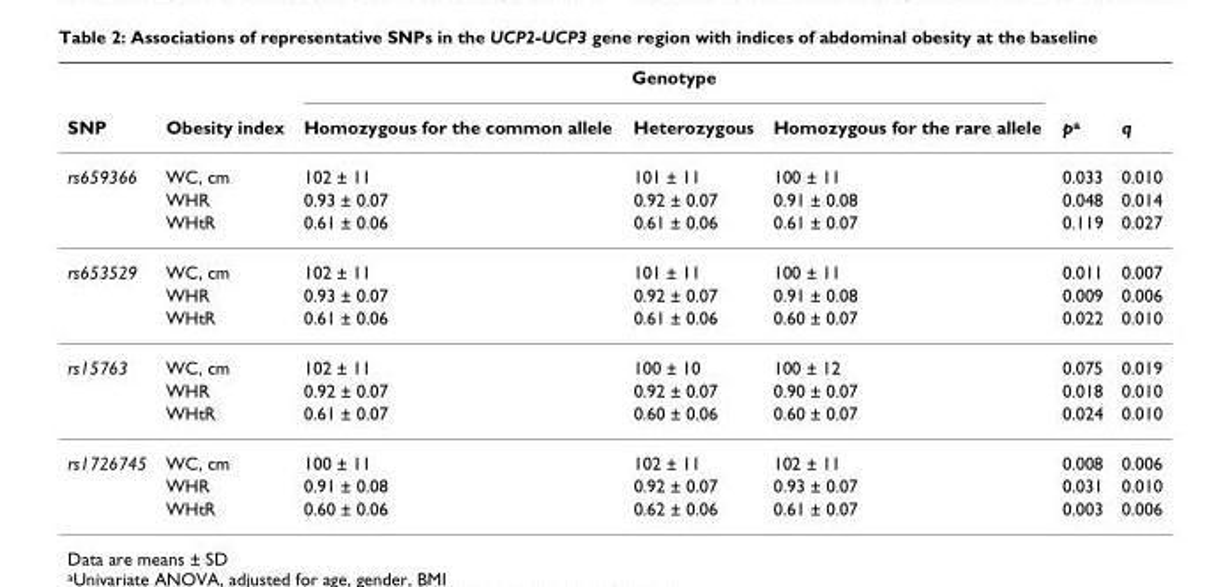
<table><thead><tr><td rowspan="2">SNP</td><td rowspan="2">Obesity index</td><td colspan="3">Genotype</td><td rowspan="2">p<sup>a</sup></td><td rowspan="2">q</td></tr><tr><td>Homozygous for the common allele</td><td>Heterozygous</td><td>Homozygous for the rare allele</td></tr></thead><tbody><tr><td rowspan="3">rs659366</td><td>WC, cm</td><td>102 ± 11</td><td>101 ± 11</td><td>100 ± 11</td><td>0.033</td><td>0.010</td></tr><tr><td>WHR</td><td>0.93 ± 0.07</td><td>0.92 ± 0.07</td><td>0.91 ± 0.08</td><td>0.048</td><td>0.014</td></tr><tr><td>WHtR</td><td>0.61 ± 0.06</td><td>0.61 ± 0.06</td><td>0.61 ± 0.07</td><td>0.119</td><td>0.027</td></tr><tr><td rowspan="3">rs653529</td><td>WC, cm</td><td>102 ± 11</td><td>101 ± 11</td><td>100 ± 11</td><td>0.011</td><td>0.007</td></tr><tr><td>WHR</td><td>0.93 ± 0.07</td><td>0.92 ± 0.07</td><td>0.91 ± 0.08</td><td>0.009</td><td>0.006</td></tr><tr><td>WHtR</td><td>0.61 ± 0.06</td><td>0.61 ± 0.06</td><td>0.60 ± 0.07</td><td>0.022</td><td>0.010</td></tr><tr><td rowspan="3">rs15763</td><td>WC, cm</td><td>102 ± 11</td><td>100 ± 10</td><td>100 ± 12</td><td>0.075</td><td>0.019</td></tr><tr><td>WHR</td><td>0.92 ± 0.07</td><td>0.92 ± 0.07</td><td>0.90 ± 0.07</td><td>0.018</td><td>0.010</td></tr><tr><td>WHtR</td><td>0.61 ± 0.07</td><td>0.60 ± 0.06</td><td>0.60 ± 0.07</td><td>0.024</td><td>0.010</td></tr><tr><td rowspan="3">rs1726745</td><td>WC, cm</td><td>100 ± 11</td><td>102 ± 11</td><td>102 ± 11</td><td>0.008</td><td>0.006</td></tr><tr><td>WHR</td><td>0.91 ± 0.08</td><td>0.92 ± 0.07</td><td>0.93 ± 0.07</td><td>0.031</td><td>0.010</td></tr><tr><td>WHtR</td><td>0.60 ± 0.06</td><td>0.62 ± 0.06</td><td>0.61 ± 0.07</td><td>0.003</td><td>0.006</td></tr></tbody></table>